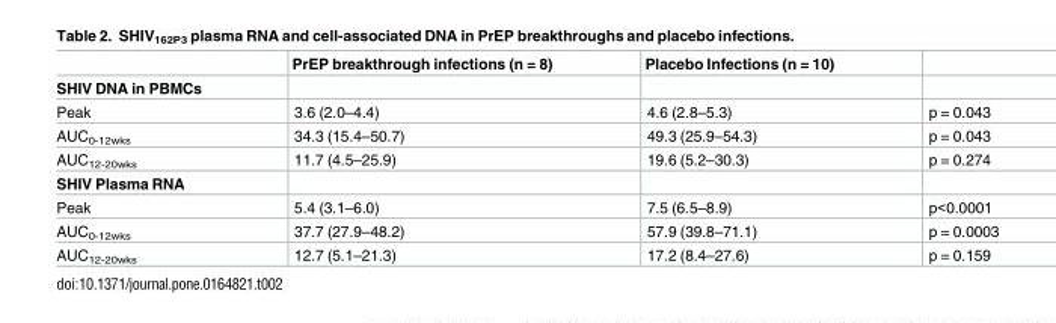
<table><thead><tr><td></td><td>PrEP breakthrough infections (n = 8)</td><td>Placebo Infections (n = 10)</td><td></td></tr></thead><tbody><tr><td colspan="4">SHIV DNA in PBMCs</td></tr><tr><td>Peak</td><td>3.6 (2.0–4.4)</td><td>4.6 (2.8–5.3)</td><td>p = 0.043</td></tr><tr><td>AUC<sub>0-12wks</sub></td><td>34.3 (15.4–50.7)</td><td>49.3 (25.9–54.3)</td><td>p = 0.043</td></tr><tr><td>AUC<sub>12-20wks</sub></td><td>11.7 (4.5–25.9)</td><td>19.6 (5.2–30.3)</td><td>p = 0.274</td></tr><tr><td colspan="4">SHIV Plasma RNA</td></tr><tr><td>Peak</td><td>5.4 (3.1–6.0)</td><td>7.5 (6.5–8.9)</td><td>p&lt;0.0001</td></tr><tr><td>AUC<sub>0-12wks</sub></td><td>37.7 (27.9–48.2)</td><td>57.9 (39.8–71.1)</td><td>p = 0.0003</td></tr><tr><td>AUC<sub>12-20wks</sub></td><td>12.7 (5.1–21.3)</td><td>17.2 (8.4–27.6)</td><td>p = 0.159</td></tr></tbody></table>